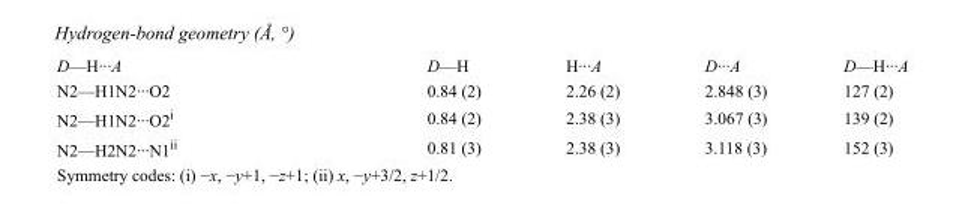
<table><tbody><tr><td>D—H···A</td><td>D—H</td><td>H···A</td><td>D···A</td><td>D—H···A</td></tr><tr><td>N2—H1N2···O2</td><td>0.84 (2)</td><td>2.26 (2)</td><td>2.848 (3)</td><td>127 (2)</td></tr><tr><td>N2—H1N2···O2<sup>i</sup></td><td>0.84 (2)</td><td>2.38 (3)</td><td>3.067 (3)</td><td>139 (2)</td></tr><tr><td>N2—H2N2···N1<sup>ii</sup></td><td>0.81 (3)</td><td>2.38 (3)</td><td>3.118 (3)</td><td>152 (3)</td></tr></tbody></table>